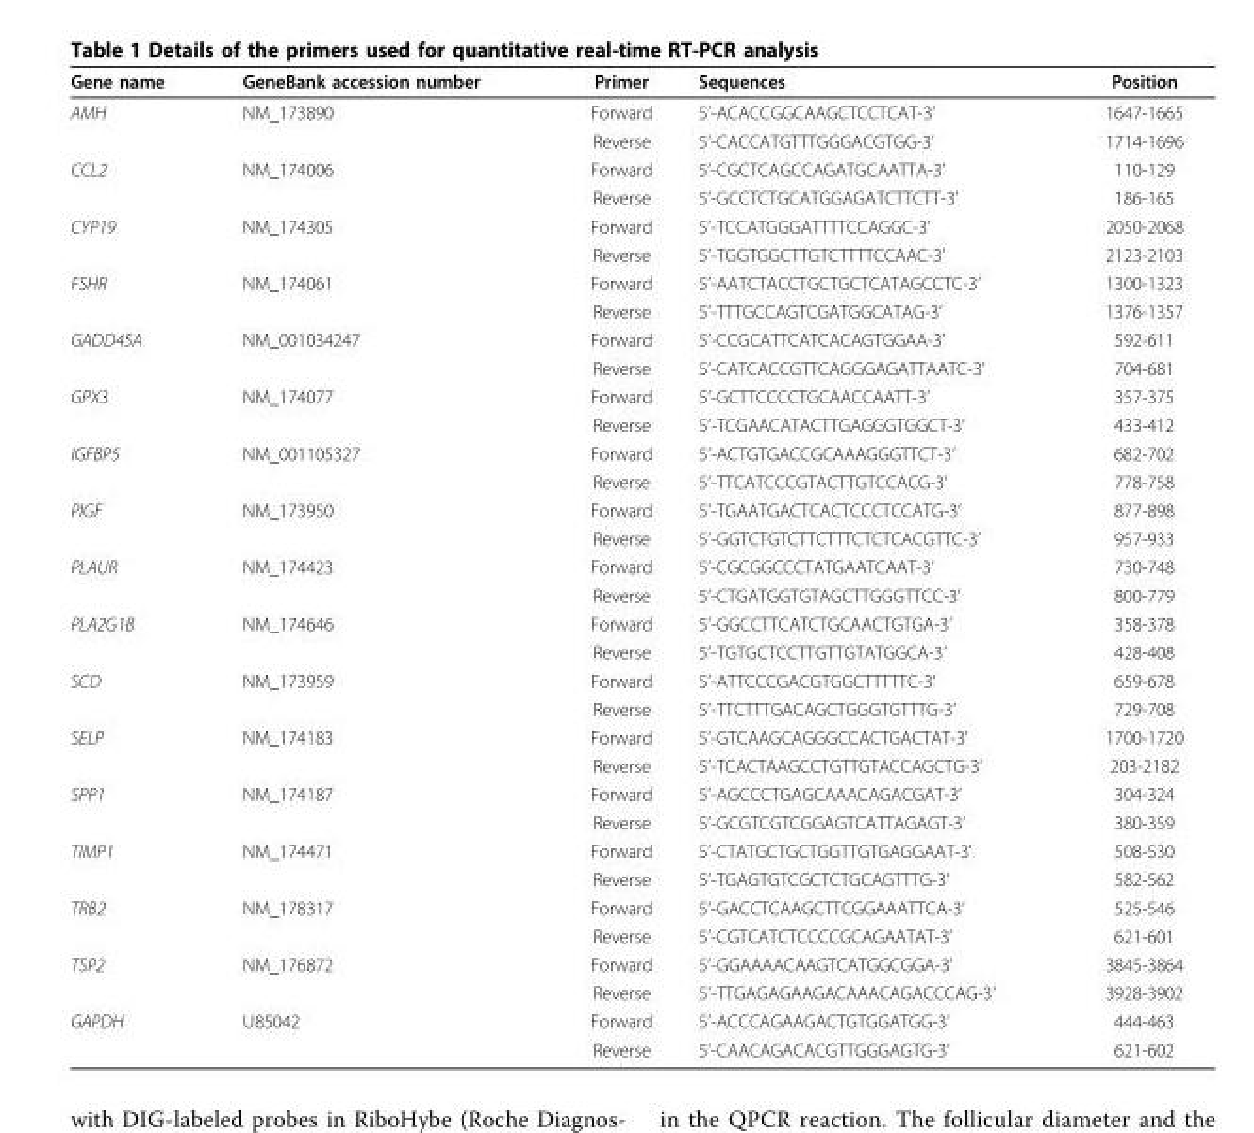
<table><thead><tr><td>Gene name</td><td>GeneBank accession number</td><td>Primer</td><td>Sequences</td><td>Position</td></tr></thead><tbody><tr><td rowspan="2">AMH</td><td>NM_173890</td><td>Forward</td><td>5’-ACACCGGCAAGCTCCTCAT-3’</td><td>1647-1665</td></tr><tr><td></td><td>Reverse</td><td>5’-CACCATGTTTGGGACGTGG-3’</td><td>1714-1696</td></tr><tr><td rowspan="2">CCL2</td><td>NM_174006</td><td>Forward</td><td>5’-CGCTCAGCCAGATGCAATTA-3’</td><td>110-129</td></tr><tr><td></td><td>Reverse</td><td>5’-GCCTCTGCATGGAGATCTTCTT-3’</td><td>186-165</td></tr><tr><td rowspan="2">CYP19</td><td>NM_174305</td><td>Forward</td><td>5’-TCCATGGGATTTTCCAGGC-3’</td><td>2050-2068</td></tr><tr><td></td><td>Reverse</td><td>5’-TGGTGGCTTGTCTTTTCCAAC-3’</td><td>2123-2103</td></tr><tr><td rowspan="2">FSHR</td><td>NM_174061</td><td>Forward</td><td>5’-AATCTACCTGCTGCTCATAGCCTC-3’</td><td>1300-1323</td></tr><tr><td></td><td>Reverse</td><td>5’-TTTGCCAGTCGATGGCATAG-3’</td><td>1376-1357</td></tr><tr><td rowspan="2">GADD45A</td><td>NM_001034247</td><td>Forward</td><td>5’-CCGCATTCATCACAGTGGAA-3’</td><td>592-611</td></tr><tr><td></td><td>Reverse</td><td>5’-CATCACCGTTCAGGGAGATTAATC-3’</td><td>704-681</td></tr><tr><td rowspan="2">GPX3</td><td>NM_174077</td><td>Forward</td><td>5’-GCTTCCCCTGCAACCAATT-3’</td><td>357-375</td></tr><tr><td></td><td>Reverse</td><td>5’-TCGAACATACTTGAGGGTGGCT-3’</td><td>433-412</td></tr><tr><td rowspan="2">IGFBP5</td><td>NM_001105327</td><td>Forward</td><td>5’-ACTGTGACCGCAAAGGGTTCT-3’</td><td>682-702</td></tr><tr><td></td><td>Reverse</td><td>5’-TTCATCCCGTACTTGTCCACG-3’</td><td>778-758</td></tr><tr><td rowspan="2">PlGF</td><td>NM_173950</td><td>Forward</td><td>5’-TGAATGACTCACTCCCTCCATG-3’</td><td>877-898</td></tr><tr><td></td><td>Reverse</td><td>5’-GGTCTGTCTTCTTTCTCTCACGTTC-3’</td><td>957-933</td></tr><tr><td rowspan="2">PLAUR</td><td>NM_174423</td><td>Forward</td><td>5’-CGCGGCCCTATGAATCAAT-3’</td><td>730-748</td></tr><tr><td></td><td>Reverse</td><td>5’-CTGATGGTGTAGCTTGGGTTCC-3’</td><td>800-779</td></tr><tr><td rowspan="2">PLA2G1B</td><td>NM_174646</td><td>Forward</td><td>5’-GGCCTTCATCTGCAACTGTGA-3’</td><td>358-378</td></tr><tr><td></td><td>Reverse</td><td>5’-TGTGCTCCTTGTTGTATGGCA-3’</td><td>428-408</td></tr><tr><td rowspan="2">SCD</td><td>NM_173959</td><td>Forward</td><td>5’-ATTCCCGACGTGGCTTTTTC-3’</td><td>659-678</td></tr><tr><td></td><td>Reverse</td><td>5’-TTCTTTGACAGCTGGGTGTTTG-3’</td><td>729-708</td></tr><tr><td rowspan="2">SELP</td><td>NM_174183</td><td>Forward</td><td>5’-GTCAAGCAGGGCCACTGACTAT-3’</td><td>1700-1720</td></tr><tr><td></td><td>Reverse</td><td>5’-TCACTAAGCCTGTTGTACCAGCTG-3’</td><td>203-2182</td></tr><tr><td rowspan="2">SPP1</td><td>NM_174187</td><td>Forward</td><td>5’-AGCCCTGAGCAAACAGACGAT-3’</td><td>304-324</td></tr><tr><td></td><td>Reverse</td><td>5’-GCGTCGTCGGAGTCATTAGAGT-3’</td><td>380-359</td></tr><tr><td rowspan="2">TIMP1</td><td>NM_174471</td><td>Forward</td><td>5’-CTATGCTGCTGGTTGTGAGGAAT-3’</td><td>508-530</td></tr><tr><td></td><td>Reverse</td><td>5’-TGAGTGTCGCTCTGCAGTTTG-3’</td><td>582-562</td></tr><tr><td rowspan="2">TRB2</td><td>NM_178317</td><td>Forward</td><td>5’-GACCTCAAGCTTCGGAAATTCA-3’</td><td>525-546</td></tr><tr><td></td><td>Reverse</td><td>5’-CGTCATCTCCCCGCAGAATAT-3’</td><td>621-601</td></tr><tr><td rowspan="2">TSP2</td><td>NM_176872</td><td>Forward</td><td>5’-GGAAAACAAGTCATGGCGGA-3’</td><td>3845-3864</td></tr><tr><td></td><td>Reverse</td><td>5’-TTGAGAGAAGACAAACAGACCCAG-3’</td><td>3928-3902</td></tr><tr><td rowspan="2">GAPDH</td><td>U85042</td><td>Forward</td><td>5’-ACCCAGAAGACTGTGGATGG-3’</td><td>444-463</td></tr><tr><td></td><td>Reverse</td><td>5’-CAACAGACACGTTGGGAGTG-3’</td><td>621-602</td></tr></tbody></table>